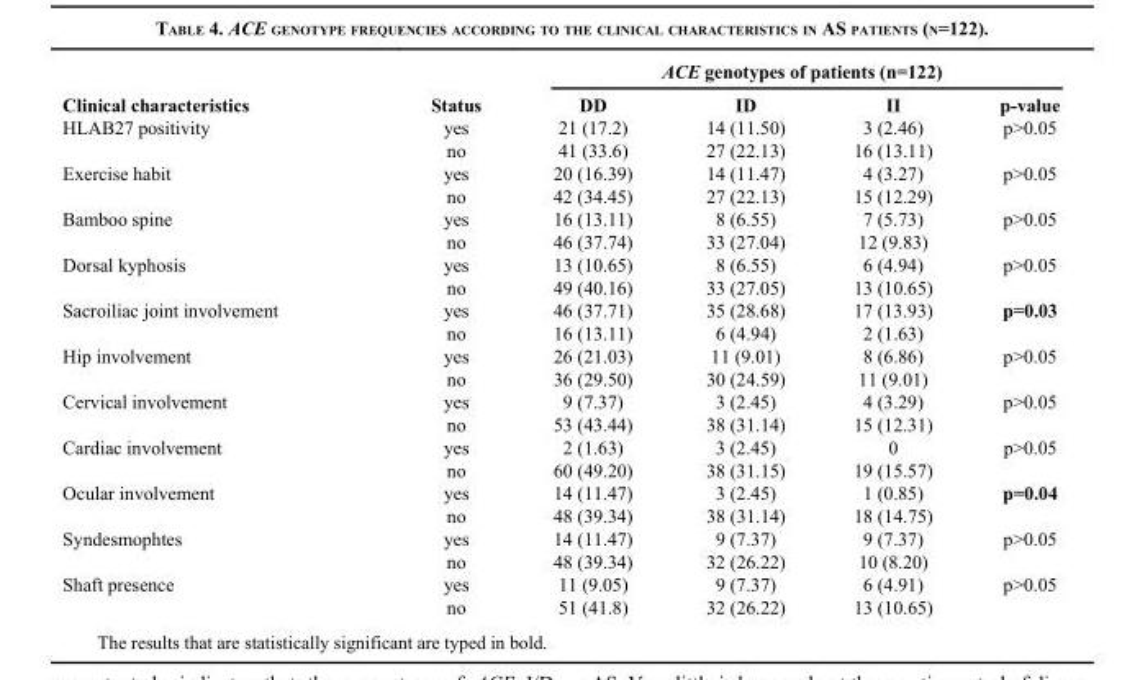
<table><thead><tr><td rowspan="2">Clinical characteristics</td><td rowspan="2">Status</td><td colspan="4">ACE genotypes of patients (n=122)</td></tr><tr><td>DD</td><td>ID</td><td>II</td><td>p-value</td></tr></thead><tbody><tr><td rowspan="2">HLAB27 positivity</td><td>yes</td><td>21 (17.2)</td><td>14 (11.50)</td><td>3 (2.46)</td><td>p&gt;0.05</td></tr><tr><td>no</td><td>41 (33.6)</td><td>27 (22.13)</td><td>16 (13.11)</td><td></td></tr><tr><td rowspan="2">Exercise habit</td><td>yes</td><td>20 (16.39)</td><td>14 (11.47)</td><td>4 (3.27)</td><td>p&gt;0.05</td></tr><tr><td>no</td><td>42 (34.45)</td><td>27 (22.13)</td><td>15 (12.29)</td><td></td></tr><tr><td rowspan="2">Bamboo spine</td><td>yes</td><td>16 (13.11)</td><td>8 (6.55)</td><td>7 (5.73)</td><td>p&gt;0.05</td></tr><tr><td>no</td><td>46 (37.74)</td><td>33 (27.04)</td><td>12 (9.83)</td><td></td></tr><tr><td rowspan="2">Dorsal kyphosis</td><td>yes</td><td>13 (10.65)</td><td>8 (6.55)</td><td>6 (4.94)</td><td>p&gt;0.05</td></tr><tr><td>no</td><td>49 (40.16)</td><td>33 (27.05)</td><td>13 (10.65)</td><td></td></tr><tr><td rowspan="2">Sacroiliac joint involvement</td><td>yes</td><td>46 (37.71)</td><td>35 (28.68)</td><td>17 (13.93)</td><td>p=0.03</td></tr><tr><td>no</td><td>16 (13.11)</td><td>6 (4.94)</td><td>2 (1.63)</td><td></td></tr><tr><td rowspan="2">Hip involvement</td><td>yes</td><td>26 (21.03)</td><td>11 (9.01)</td><td>8 (6.86)</td><td>p&gt;0.05</td></tr><tr><td>no</td><td>36 (29.50)</td><td>30 (24.59)</td><td>11 (9.01)</td><td></td></tr><tr><td rowspan="2">Cervical involvement</td><td>yes</td><td>9 (7.37)</td><td>3 (2.45)</td><td>4 (3.29)</td><td>p&gt;0.05</td></tr><tr><td>no</td><td>53 (43.44)</td><td>38 (31.14)</td><td>15 (12.31)</td><td></td></tr><tr><td rowspan="2">Cardiac involvement</td><td>yes</td><td>2 (1.63)</td><td>3 (2.45)</td><td>0</td><td>p&gt;0.05</td></tr><tr><td>no</td><td>60 (49.20)</td><td>38 (31.15)</td><td>19 (15.57)</td><td></td></tr><tr><td rowspan="2">Ocular involvement</td><td>yes</td><td>14 (11.47)</td><td>3 (2.45)</td><td>1 (0.85)</td><td>p=0.04</td></tr><tr><td>no</td><td>48 (39.34)</td><td>38 (31.14)</td><td>18 (14.75)</td><td></td></tr><tr><td rowspan="2">Syndesmophtes</td><td>yes</td><td>14 (11.47)</td><td>9 (7.37)</td><td>9 (7.37)</td><td>p&gt;0.05</td></tr><tr><td>no</td><td>48 (39.34)</td><td>32 (26.22)</td><td>10 (8.20)</td><td></td></tr><tr><td rowspan="2">Shaft presence</td><td>yes</td><td>11 (9.05)</td><td>9 (7.37)</td><td>6 (4.91)</td><td>p&gt;0.05</td></tr><tr><td>no</td><td>51 (41.8)</td><td>32 (26.22)</td><td>13 (10.65)</td><td></td></tr></tbody></table>